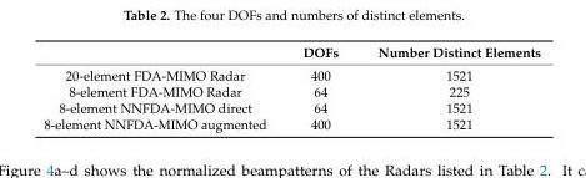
<table><thead><tr><td></td><td>DOFs</td><td>Number Distinct Elements</td></tr></thead><tbody><tr><td>20-element FDA-MIMO Radar</td><td>400</td><td>1521</td></tr><tr><td>8-element FDA-MIMO Radar</td><td>64</td><td>225</td></tr><tr><td>8-element NNFDA-MIMO direct</td><td>64</td><td>1521</td></tr><tr><td>8-element NNFDA-MIMO augmented</td><td>400</td><td>1521</td></tr></tbody></table>